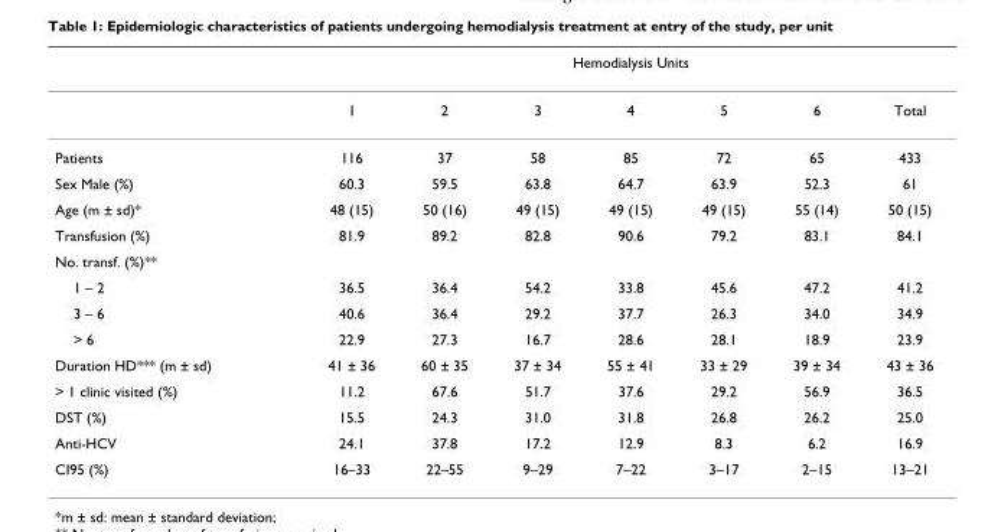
<table><thead><tr><td rowspan="2"></td><td colspan="7">Hemodialysis Units</td></tr><tr><td>1</td><td>2</td><td>3</td><td>4</td><td>5</td><td>6</td><td>Total</td></tr></thead><tbody><tr><td>Patients</td><td>116</td><td>37</td><td>58</td><td>85</td><td>72</td><td>65</td><td>433</td></tr><tr><td>Sex Male (%)</td><td>60.3</td><td>59.5</td><td>63.8</td><td>64.7</td><td>63.9</td><td>52.3</td><td>61</td></tr><tr><td>Age (m ± sd)*</td><td>48 (15)</td><td>50 (16)</td><td>49 (15)</td><td>49 (15)</td><td>49 (15)</td><td>55 (14)</td><td>50 (15)</td></tr><tr><td>Transfusion (%)</td><td>81.9</td><td>89.2</td><td>82.8</td><td>90.6</td><td>79.2</td><td>83.1</td><td>84.1</td></tr><tr><td colspan="8">No. transf. (%)**</td></tr><tr><td>1 – 2</td><td>36.5</td><td>36.4</td><td>54.2</td><td>33.8</td><td>45.6</td><td>47.2</td><td>41.2</td></tr><tr><td>3 – 6</td><td>40.6</td><td>36.4</td><td>29.2</td><td>37.7</td><td>26.3</td><td>34.0</td><td>34.9</td></tr><tr><td>&gt; 6</td><td>22.9</td><td>27.3</td><td>16.7</td><td>28.6</td><td>28.1</td><td>18.9</td><td>23.9</td></tr><tr><td>Duration HD*** (m ± sd)</td><td>41 ± 36</td><td>60 ± 35</td><td>37 ± 34</td><td>55 ± 41</td><td>33 ± 29</td><td>39 ± 34</td><td>43 ± 36</td></tr><tr><td>&gt; 1 clinic visited (%)</td><td>11.2</td><td>67.6</td><td>51.7</td><td>37.6</td><td>29.2</td><td>56.9</td><td>36.5</td></tr><tr><td>DST (%)</td><td>15.5</td><td>24.3</td><td>31.0</td><td>31.8</td><td>26.8</td><td>26.2</td><td>25.0</td></tr><tr><td>Anti-HCV</td><td>24.1</td><td>37.8</td><td>17.2</td><td>12.9</td><td>8.3</td><td>6.2</td><td>16.9</td></tr><tr><td>CI95 (%)</td><td>16–33</td><td>22–55</td><td>9–29</td><td>7–22</td><td>3–17</td><td>2–15</td><td>13–21</td></tr></tbody></table>